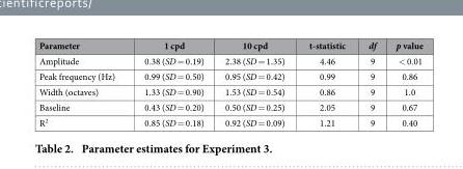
<table><thead><tr><td>Parameter</td><td>1 cpd</td><td>10 cpd</td><td>t-statistic</td><td>df</td><td>p value</td></tr></thead><tbody><tr><td>Amplitude</td><td>0.38 (SD = 0.19)</td><td>2.38 (SD = 1.35)</td><td>4.46</td><td>9</td><td>&lt; 0.01</td></tr><tr><td>Peak frequency (Hz)</td><td>0.99 (SD = 0.50)</td><td>0.95 (SD = 0.42)</td><td>0.99</td><td>9</td><td>0.86</td></tr><tr><td>Width (octaves)</td><td>1.33 (SD = 0.90)</td><td>1.53 (SD = 0.54)</td><td>0.86</td><td>9</td><td>1.0</td></tr><tr><td>Baseline</td><td>0.43 (SD = 0.20)</td><td>0.50 (SD = 0.25)</td><td>2.05</td><td>9</td><td>0.67</td></tr><tr><td>R<sup>2</sup></td><td>0.85 (SD = 0.18)</td><td>0.92 (SD = 0.09)</td><td>1.21</td><td>9</td><td>0.40</td></tr></tbody></table>